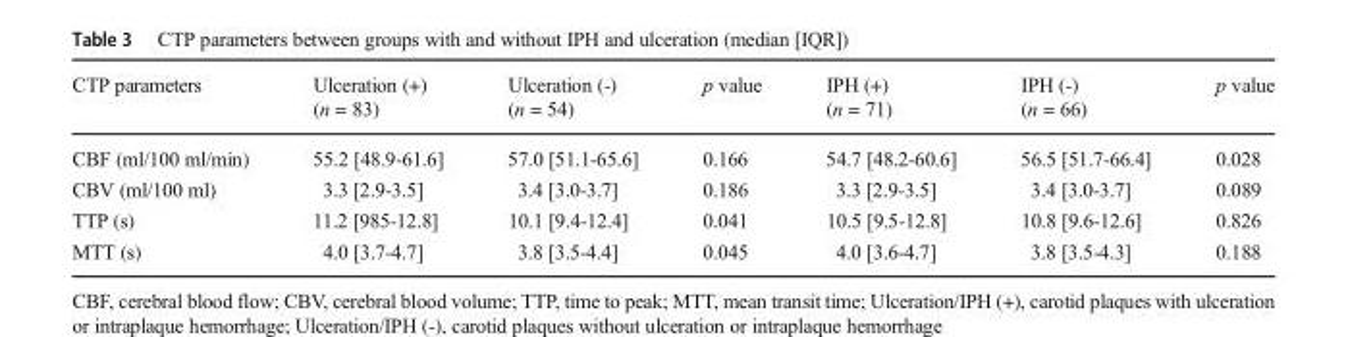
<table><thead><tr><td>CTP parameters</td><td>Ulceration (+) (n = 83)</td><td>Ulceration (-) (n = 54)</td><td>p value</td><td>IPH (+) (n = 71)</td><td>IPH (-) (n = 66)</td><td>p value</td></tr></thead><tbody><tr><td>CBF (ml/100 ml/min)</td><td>55.2 [48.9-61.6]</td><td>57.0 [51.1-65.6]</td><td>0.166</td><td>54.7 [48.2-60.6]</td><td>56.5 [51.7-66.4]</td><td>0.028</td></tr><tr><td>CBV (ml/100 ml)</td><td>3.3 [2.9-3.5]</td><td>3.4 [3.0-3.7]</td><td>0.186</td><td>3.3 [2.9-3.5]</td><td>3.4 [3.0-3.7]</td><td>0.089</td></tr><tr><td>TTP (s)</td><td>11.2 [985-12.8]</td><td>10.1 [9.4-12.4]</td><td>0.041</td><td>10.5 [9.5-12.8]</td><td>10.8 [9.6-12.6]</td><td>0.826</td></tr><tr><td>MTT (s)</td><td>4.0 [3.7-4.7]</td><td>3.8 [3.5-4.4]</td><td>0.045</td><td>4.0 [3.6-4.7]</td><td>3.8 [3.5-4.3]</td><td>0.188</td></tr></tbody></table>